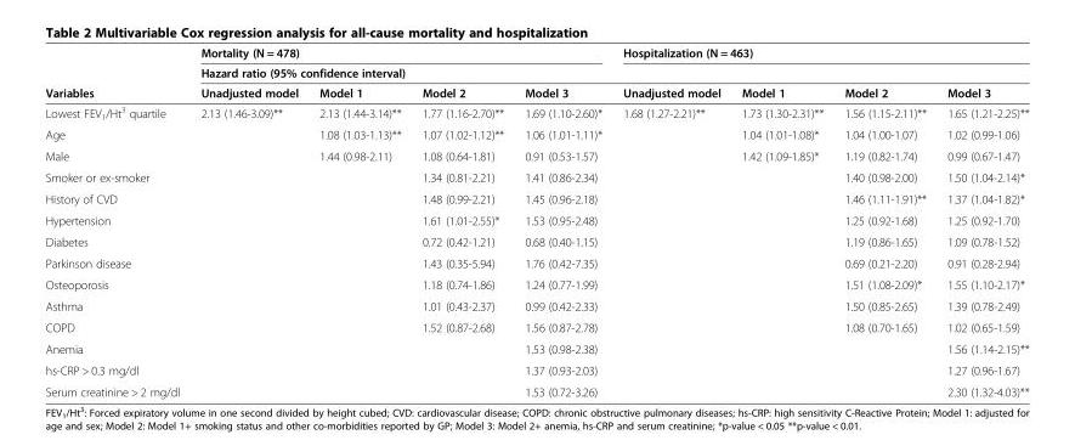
<table><thead><tr><td rowspan="3">Variables</td><td colspan="4">Mortality (N = 478)</td><td colspan="4">Hospitalization (N = 463)</td></tr><tr><td colspan="8">Hazard ratio (95% confidence interval)</td></tr><tr><td>Unadjusted model</td><td>Model 1</td><td>Model 2</td><td>Model 3</td><td>Unadjusted model</td><td>Model 1</td><td>Model 2</td><td>Model 3</td></tr></thead><tbody><tr><td>Lowest FEV<sub>1</sub>/Ht<sup>3</sup> quartile</td><td>2.13 (1.46-3.09)**</td><td>2.13 (1.44-3.14)**</td><td>1.77 (1.16-2.70)**</td><td>1.69 (1.10-2.60)*</td><td>1.68 (1.27-2.21)**</td><td>1.73 (1.30-2.31)**</td><td>1.56 (1.15-2.11)**</td><td>1.65 (1.21-2.25)**</td></tr><tr><td>Age</td><td></td><td>1.08 (1.03-1.13)**</td><td>1.07 (1.02-1.12)**</td><td>1.06 (1.01-1.11)*</td><td></td><td>1.04 (1.01-1.08)*</td><td>1.04 (1.00-1.07)</td><td>1.02 (0.99-1.06)</td></tr><tr><td>Male</td><td></td><td>1.44 (0.98-2.11)</td><td>1.08 (0.64-1.81)</td><td>0.91 (0.53-1.57)</td><td></td><td>1.42 (1.09-1.85)*</td><td>1.19 (0.82-1.74)</td><td>0.99 (0.67-1.47)</td></tr><tr><td>Smoker or ex-smoker</td><td></td><td></td><td>1.34 (0.81-2.21)</td><td>1.41 (0.86-2.34)</td><td></td><td></td><td>1.40 (0.98-2.00)</td><td>1.50 (1.04-2.14)*</td></tr><tr><td>History of CVD</td><td></td><td></td><td>1.48 (0.99-2.21)</td><td>1.45 (0.96-2.18)</td><td></td><td></td><td>1.46 (1.11-1.91)**</td><td>1.37 (1.04-1.82)*</td></tr><tr><td>Hypertension</td><td></td><td></td><td>1.61 (1.01-2.55)*</td><td>1.53 (0.95-2.48)</td><td></td><td></td><td>1.25 (0.92-1.68)</td><td>1.25 (0.92-1.70)</td></tr><tr><td>Diabetes</td><td></td><td></td><td>0.72 (0.42-1.21)</td><td>0.68 (0.40-1.15)</td><td></td><td></td><td>1.19 (0.86-1.65)</td><td>1.09 (0.78-1.52)</td></tr><tr><td>Parkinson disease</td><td></td><td></td><td>1.43 (0.35-5.94)</td><td>1.76 (0.42-7.35)</td><td></td><td></td><td>0.69 (0.21-2.20)</td><td>0.91 (0.28-2.94)</td></tr><tr><td>Osteoporosis</td><td></td><td></td><td>1.18 (0.74-1.86)</td><td>1.24 (0.77-1.99)</td><td></td><td></td><td>1.51 (1.08-2.09)*</td><td>1.55 (1.10-2.17)*</td></tr><tr><td>Asthma</td><td></td><td></td><td>1.01 (0.43-2.37)</td><td>0.99 (0.42-2.33)</td><td></td><td></td><td>1.50 (0.85-2.65)</td><td>1.39 (0.78-2.49)</td></tr><tr><td>COPD</td><td></td><td></td><td>1.52 (0.87-2.68)</td><td>1.56 (0.87-2.78)</td><td></td><td></td><td>1.08 (0.70-1.65)</td><td>1.02 (0.65-1.59)</td></tr><tr><td>Anemia</td><td></td><td></td><td></td><td>1.53 (0.98-2.38)</td><td></td><td></td><td></td><td>1.56 (1.14-2.15)**</td></tr><tr><td>hs-CRP &gt; 0.3 mg/dl</td><td></td><td></td><td></td><td>1.37 (0.93-2.03)</td><td></td><td></td><td></td><td>1.27 (0.96-1.67)</td></tr><tr><td>Serum creatinine &gt; 2 mg/dl</td><td></td><td></td><td></td><td>1.53 (0.72-3.26)</td><td></td><td></td><td></td><td>2.30 (1.32-4.03)**</td></tr></tbody></table>